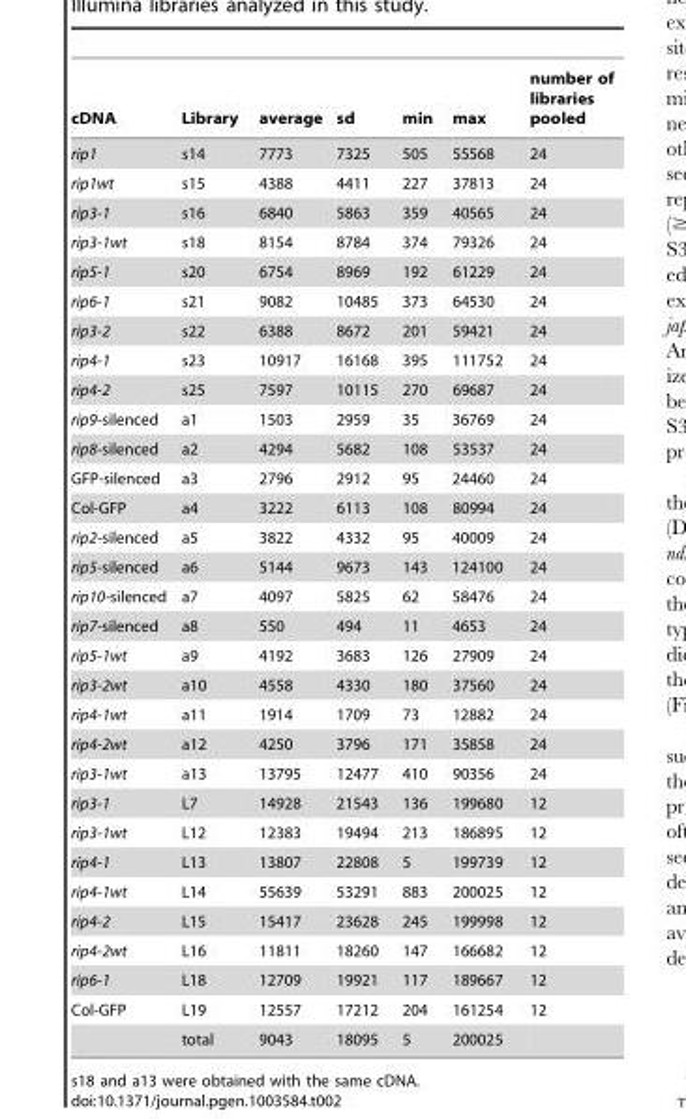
<table><thead><tr><td>cDNA</td><td>Library</td><td>average</td><td>sd</td><td>min</td><td>max</td><td>number of libraries pooled</td></tr></thead><tbody><tr><td>rip1</td><td>s14</td><td>7773</td><td>7325</td><td>505</td><td>55568</td><td>24</td></tr><tr><td>rip1wt</td><td>s15</td><td>4388</td><td>4411</td><td>227</td><td>37813</td><td>24</td></tr><tr><td>rip3-1</td><td>s16</td><td>6840</td><td>5863</td><td>359</td><td>40565</td><td>24</td></tr><tr><td>rip3-1wt</td><td>s18</td><td>8154</td><td>8784</td><td>374</td><td>79326</td><td>24</td></tr><tr><td>rip5-1</td><td>s20</td><td>6754</td><td>8969</td><td>192</td><td>61229</td><td>24</td></tr><tr><td>rip6-1</td><td>s21</td><td>9082</td><td>10485</td><td>373</td><td>64530</td><td>24</td></tr><tr><td>rip3-2</td><td>s22</td><td>6388</td><td>8672</td><td>201</td><td>59421</td><td>24</td></tr><tr><td>rip4-1</td><td>s23</td><td>10917</td><td>16168</td><td>395</td><td>111752</td><td>24</td></tr><tr><td>rip4-2</td><td>s25</td><td>7597</td><td>10115</td><td>270</td><td>69687</td><td>24</td></tr><tr><td>rip9-silenced</td><td>a1</td><td>1503</td><td>2959</td><td>35</td><td>36769</td><td>24</td></tr><tr><td>rip8-silenced</td><td>a2</td><td>4294</td><td>5682</td><td>108</td><td>53537</td><td>24</td></tr><tr><td>GFP-silenced</td><td>a3</td><td>2796</td><td>2912</td><td>95</td><td>24460</td><td>24</td></tr><tr><td>Col-GFP</td><td>a4</td><td>3222</td><td>6113</td><td>108</td><td>80994</td><td>24</td></tr><tr><td>rip2-silenced</td><td>a5</td><td>3822</td><td>4332</td><td>95</td><td>40009</td><td>24</td></tr><tr><td>rip5-silenced</td><td>a6</td><td>5144</td><td>9673</td><td>143</td><td>124100</td><td>24</td></tr><tr><td>rip10-silenced</td><td>a7</td><td>4097</td><td>5825</td><td>62</td><td>58476</td><td>24</td></tr><tr><td>rip7-silenced</td><td>a8</td><td>550</td><td>494</td><td>11</td><td>4653</td><td>24</td></tr><tr><td>rip5-1wt</td><td>a9</td><td>4192</td><td>3683</td><td>126</td><td>27909</td><td>24</td></tr><tr><td>rip3-2wt</td><td>a10</td><td>4558</td><td>4330</td><td>180</td><td>37560</td><td>24</td></tr><tr><td>rip4-1wt</td><td>a11</td><td>1914</td><td>1709</td><td>73</td><td>12882</td><td>24</td></tr><tr><td>rip4-2wt</td><td>a12</td><td>4250</td><td>3796</td><td>171</td><td>35858</td><td>24</td></tr><tr><td>rip3-1wt</td><td>a13</td><td>13795</td><td>12477</td><td>410</td><td>90356</td><td>24</td></tr><tr><td>rip3-1</td><td>L7</td><td>14928</td><td>21543</td><td>136</td><td>199680</td><td>12</td></tr><tr><td>rip3-1wt</td><td>L12</td><td>12383</td><td>19494</td><td>213</td><td>186895</td><td>12</td></tr><tr><td>rip4-1</td><td>L13</td><td>13807</td><td>22808</td><td>5</td><td>199739</td><td>12</td></tr><tr><td>rip4-1wt</td><td>L14</td><td>55639</td><td>53291</td><td>883</td><td>200025</td><td>12</td></tr><tr><td>rip4-2</td><td>L15</td><td>15417</td><td>23628</td><td>245</td><td>199998</td><td>12</td></tr><tr><td>rip4-2wt</td><td>L16</td><td>11811</td><td>18260</td><td>147</td><td>166682</td><td>12</td></tr><tr><td>rip6-1</td><td>L18</td><td>12709</td><td>19921</td><td>117</td><td>189667</td><td>12</td></tr><tr><td rowspan="2">Col-GFP</td><td>L19</td><td>12557</td><td>17212</td><td>204</td><td>161254</td><td>12</td></tr><tr><td>total</td><td>9043</td><td>18095</td><td>5</td><td>200025</td><td></td></tr></tbody></table>